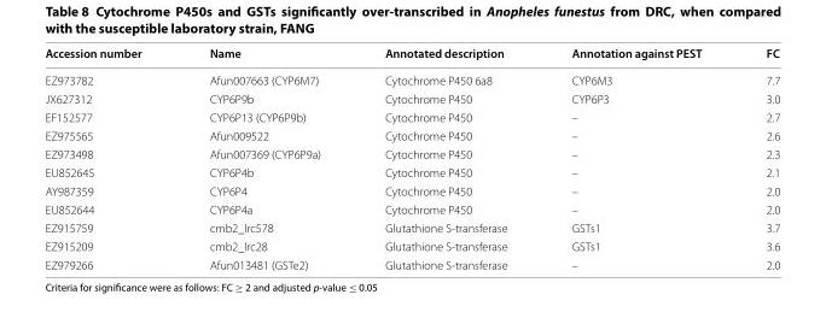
<table><thead><tr><td>Accession number</td><td>Name</td><td>Annotated description</td><td>Annotation against PEST</td><td>FC</td></tr></thead><tbody><tr><td>EZ973782</td><td>Afun007663 (CYP6M7)</td><td>Cytochrome P450 6a8</td><td>CYP6M3</td><td>7.7</td></tr><tr><td>JX627312</td><td>CYP6P9b</td><td>Cytochrome P450</td><td>CYP6P3</td><td>3.0</td></tr><tr><td>EF152577</td><td>CYP6P13 (CYP6P9b)</td><td>Cytochrome P450</td><td>–</td><td>2.7</td></tr><tr><td>EZ975565</td><td>Afun009522</td><td>Cytochrome P450</td><td>–</td><td>2.6</td></tr><tr><td>EZ973498</td><td>Afun007369 (CYP6P9a)</td><td>Cytochrome P450</td><td>–</td><td>2.3</td></tr><tr><td>EU852645</td><td>CYP6P4b</td><td>Cytochrome P450</td><td>–</td><td>2.1</td></tr><tr><td>AY987359</td><td>CYP6P4</td><td>Cytochrome P450</td><td>–</td><td>2.0</td></tr><tr><td>EU852644</td><td>CYP6P4a</td><td>Cytochrome P450</td><td>–</td><td>2.0</td></tr><tr><td>EZ915759</td><td>cmb2_lrc578</td><td>Glutathione S‑transferase</td><td>GSTs1</td><td>3.7</td></tr><tr><td>EZ915209</td><td>cmb2_lrc28</td><td>Glutathione S‑transferase</td><td>GSTs1</td><td>3.6</td></tr><tr><td>EZ979266</td><td>Afun013481 (GSTe2)</td><td>Glutathione S‑transferase</td><td>–</td><td>2.0</td></tr></tbody></table>